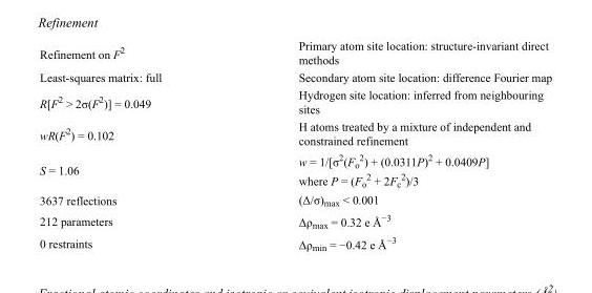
<table><tbody><tr><td>Refinement on F<sup>2</sup></td><td>Primary atom site location: structure-invariant direct methods</td></tr><tr><td>Least-squares matrix: full</td><td>Secondary atom site location: difference Fourier map</td></tr><tr><td>R[F<sup>2</sup> &gt; 2σ(F<sup>2</sup>)] = 0.049</td><td>Hydrogen site location: inferred from neighbouring sites</td></tr><tr><td>wR(F<sup>2</sup>) = 0.102</td><td>H atoms treated by a mixture of independent and constrained refinement</td></tr><tr><td>S = 1.06</td><td>w = 1/[σ<sup>2</sup>(F<sub>o</sub> <sup>2</sup>) + (0.0311P)<sup>2</sup> + 0.0409P] where P = (F<sub>o</sub> <sup>2</sup> + 2F<sub>c</sub> <sup>2</sup>)/3</td></tr><tr><td>3637 reflections</td><td>(Δ/σ)<sub>max</sub> &lt; 0.001</td></tr><tr><td>212 parameters</td><td>Δρ<sub>max</sub> = 0.32 e Å<sup>−3</sup></td></tr><tr><td>0 restraints</td><td>Δρ<sub>min</sub> = −0.42 e Å<sup>−3</sup></td></tr></tbody></table>